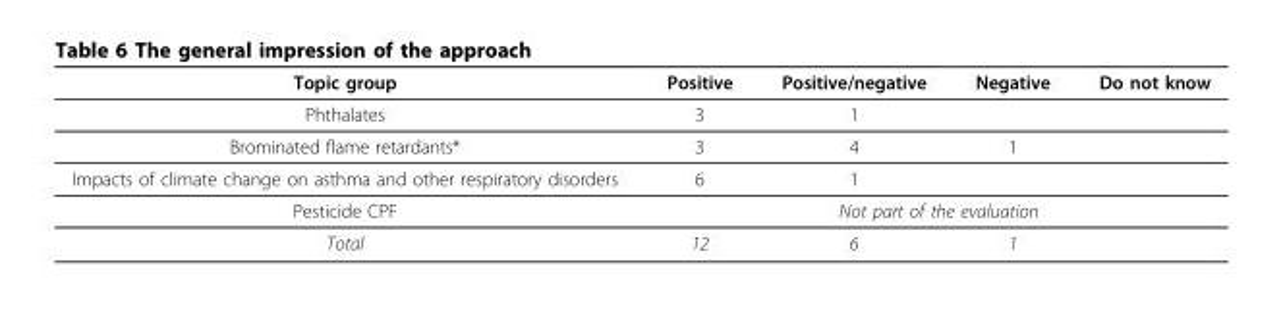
<table><thead><tr><td>Topic group</td><td>Positive</td><td>Positive/negative</td><td>Negative</td><td>Do not know</td></tr></thead><tbody><tr><td>Phthalates</td><td>3</td><td>1</td><td></td><td></td></tr><tr><td>Brominated flame retardants*</td><td>3</td><td>4</td><td>1</td><td></td></tr><tr><td>Impacts of climate change on asthma and other respiratory disorders</td><td>6</td><td>1</td><td></td><td></td></tr><tr><td>Pesticide CPF</td><td colspan="4">Not part of the evaluation</td></tr><tr><td>Total</td><td>12</td><td>6</td><td>1</td><td></td></tr></tbody></table>